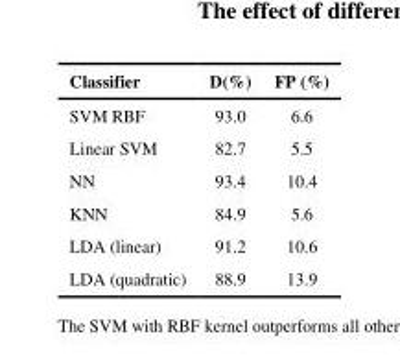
<table><thead><tr><td>Classifier</td><td>D(%)</td><td>FP (%)</td></tr></thead><tbody><tr><td>SVM RBF</td><td>93.0</td><td>6.6</td></tr><tr><td>Linear SVM</td><td>82.7</td><td>5.5</td></tr><tr><td>NN</td><td>93.4</td><td>10.4</td></tr><tr><td>KNN</td><td>84.9</td><td>5.6</td></tr><tr><td>LDA (linear)</td><td>91.2</td><td>10.6</td></tr><tr><td>LDA (quadratic)</td><td>88.9</td><td>13.9</td></tr></tbody></table>